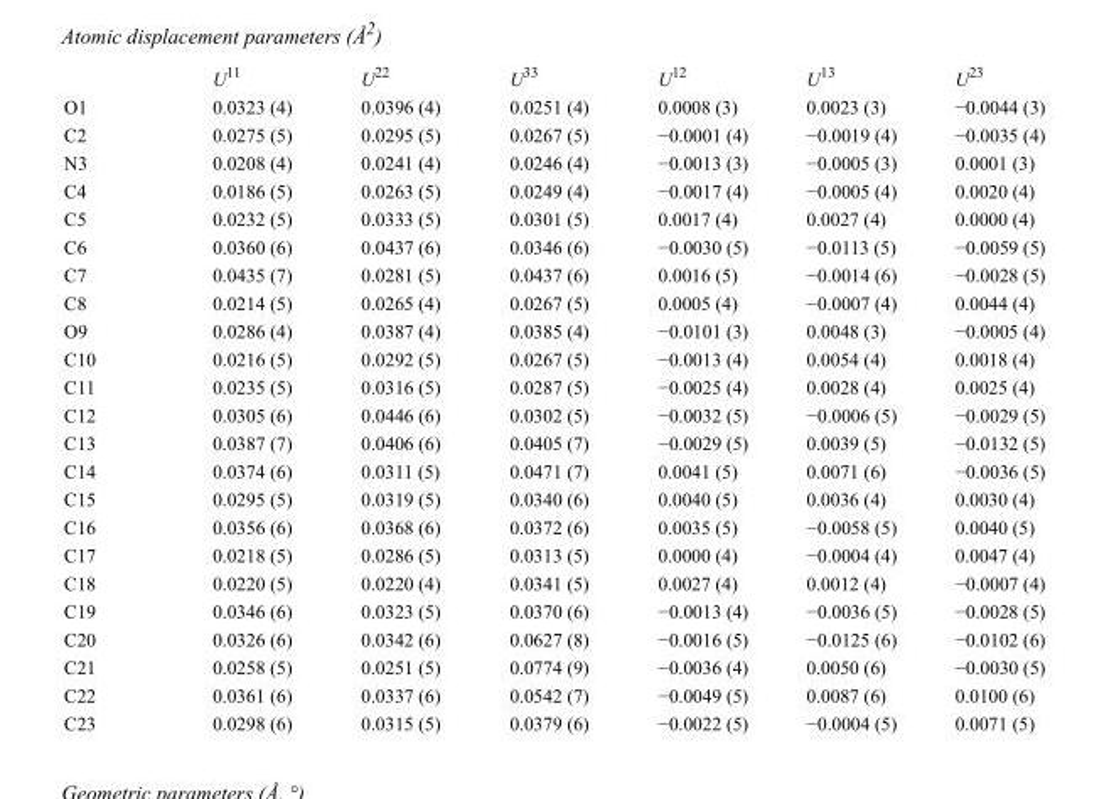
<table><thead><tr><td></td><td>U<sup>11</sup></td><td>U<sup>22</sup></td><td>U<sup>33</sup></td><td>U<sup>12</sup></td><td>U<sup>13</sup></td><td>U<sup>23</sup></td></tr></thead><tbody><tr><td>O1</td><td>0.0323 (4)</td><td>0.0396 (4)</td><td>0.0251 (4)</td><td>0.0008 (3)</td><td>0.0023 (3)</td><td>−0.0044 (3)</td></tr><tr><td>C2</td><td>0.0275 (5)</td><td>0.0295 (5)</td><td>0.0267 (5)</td><td>−0.0001 (4)</td><td>−0.0019 (4)</td><td>−0.0035 (4)</td></tr><tr><td>N3</td><td>0.0208 (4)</td><td>0.0241 (4)</td><td>0.0246 (4)</td><td>−0.0013 (3)</td><td>−0.0005 (3)</td><td>0.0001 (3)</td></tr><tr><td>C4</td><td>0.0186 (5)</td><td>0.0263 (5)</td><td>0.0249 (4)</td><td>−0.0017 (4)</td><td>−0.0005 (4)</td><td>0.0020 (4)</td></tr><tr><td>C5</td><td>0.0232 (5)</td><td>0.0333 (5)</td><td>0.0301 (5)</td><td>0.0017 (4)</td><td>0.0027 (4)</td><td>0.0000 (4)</td></tr><tr><td>C6</td><td>0.0360 (6)</td><td>0.0437 (6)</td><td>0.0346 (6)</td><td>−0.0030 (5)</td><td>−0.0113 (5)</td><td>−0.0059 (5)</td></tr><tr><td>C7</td><td>0.0435 (7)</td><td>0.0281 (5)</td><td>0.0437 (6)</td><td>0.0016 (5)</td><td>−0.0014 (6)</td><td>−0.0028 (5)</td></tr><tr><td>C8</td><td>0.0214 (5)</td><td>0.0265 (4)</td><td>0.0267 (5)</td><td>0.0005 (4)</td><td>−0.0007 (4)</td><td>0.0044 (4)</td></tr><tr><td>O9</td><td>0.0286 (4)</td><td>0.0387 (4)</td><td>0.0385 (4)</td><td>−0.0101 (3)</td><td>0.0048 (3)</td><td>−0.0005 (4)</td></tr><tr><td>C10</td><td>0.0216 (5)</td><td>0.0292 (5)</td><td>0.0267 (5)</td><td>−0.0013 (4)</td><td>0.0054 (4)</td><td>0.0018 (4)</td></tr><tr><td>C11</td><td>0.0235 (5)</td><td>0.0316 (5)</td><td>0.0287 (5)</td><td>−0.0025 (4)</td><td>0.0028 (4)</td><td>0.0025 (4)</td></tr><tr><td>C12</td><td>0.0305 (6)</td><td>0.0446 (6)</td><td>0.0302 (5)</td><td>−0.0032 (5)</td><td>−0.0006 (5)</td><td>−0.0029 (5)</td></tr><tr><td>C13</td><td>0.0387 (7)</td><td>0.0406 (6)</td><td>0.0405 (7)</td><td>−0.0029 (5)</td><td>0.0039 (5)</td><td>−0.0132 (5)</td></tr><tr><td>C14</td><td>0.0374 (6)</td><td>0.0311 (5)</td><td>0.0471 (7)</td><td>0.0041 (5)</td><td>0.0071 (6)</td><td>−0.0036 (5)</td></tr><tr><td>C15</td><td>0.0295 (5)</td><td>0.0319 (5)</td><td>0.0340 (6)</td><td>0.0040 (5)</td><td>0.0036 (4)</td><td>0.0030 (4)</td></tr><tr><td>C16</td><td>0.0356 (6)</td><td>0.0368 (6)</td><td>0.0372 (6)</td><td>0.0035 (5)</td><td>−0.0058 (5)</td><td>0.0040 (5)</td></tr><tr><td>C17</td><td>0.0218 (5)</td><td>0.0286 (5)</td><td>0.0313 (5)</td><td>0.0000 (4)</td><td>−0.0004 (4)</td><td>0.0047 (4)</td></tr><tr><td>C18</td><td>0.0220 (5)</td><td>0.0220 (4)</td><td>0.0341 (5)</td><td>0.0027 (4)</td><td>0.0012 (4)</td><td>−0.0007 (4)</td></tr><tr><td>C19</td><td>0.0346 (6)</td><td>0.0323 (5)</td><td>0.0370 (6)</td><td>−0.0013 (4)</td><td>−0.0036 (5)</td><td>−0.0028 (5)</td></tr><tr><td>C20</td><td>0.0326 (6)</td><td>0.0342 (6)</td><td>0.0627 (8)</td><td>−0.0016 (5)</td><td>−0.0125 (6)</td><td>−0.0102 (6)</td></tr><tr><td>C21</td><td>0.0258 (5)</td><td>0.0251 (5)</td><td>0.0774 (9)</td><td>−0.0036 (4)</td><td>0.0050 (6)</td><td>−0.0030 (5)</td></tr><tr><td>C22</td><td>0.0361 (6)</td><td>0.0337 (6)</td><td>0.0542 (7)</td><td>−0.0049 (5)</td><td>0.0087 (6)</td><td>0.0100 (6)</td></tr><tr><td>C23</td><td>0.0298 (6)</td><td>0.0315 (5)</td><td>0.0379 (6)</td><td>−0.0022 (5)</td><td>−0.0004 (5)</td><td>0.0071 (5)</td></tr></tbody></table>